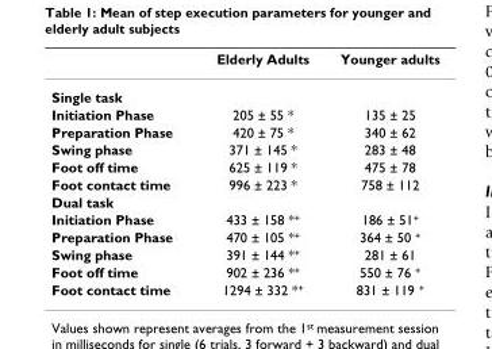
<table><thead><tr><td></td><td>Elderly Adults</td><td>Younger adults</td></tr></thead><tbody><tr><td colspan="3">Single task</td></tr><tr><td>Initiation Phase</td><td>205 ± 55 *</td><td>135 ± 25</td></tr><tr><td>Preparation Phase</td><td>420 ± 75 *</td><td>340 ± 62</td></tr><tr><td>Swing phase</td><td>371 ± 145 *</td><td>283 ± 48</td></tr><tr><td>Foot off time</td><td>625 ± 119 *</td><td>475 ± 78</td></tr><tr><td>Foot contact time</td><td>996 ± 223 *</td><td>758 ± 112</td></tr><tr><td colspan="3">Dual task</td></tr><tr><td>Initiation Phase</td><td>433 ± 158 *<sup>+</sup></td><td>186 ± 51<sup>+</sup></td></tr><tr><td>Preparation Phase</td><td>470 ± 105 *<sup>+</sup></td><td>364 ± 50 <sup>+</sup></td></tr><tr><td>Swing phase</td><td>391 ± 144 *<sup>+</sup></td><td>281 ± 61</td></tr><tr><td>Foot off time</td><td>902 ± 236 *<sup>+</sup></td><td>550 ± 76 <sup>+</sup></td></tr><tr><td>Foot contact time</td><td>1294 ± 332 *<sup>+</sup></td><td>831 ± 119 <sup>+</sup></td></tr></tbody></table>